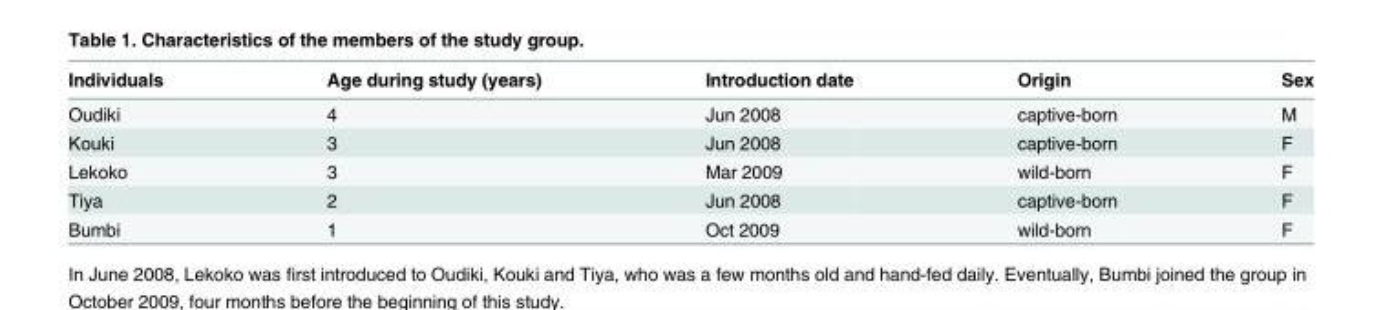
<table><thead><tr><td>Individuals</td><td>Age during study (years)</td><td>Introduction date</td><td>Origin</td><td>Sex</td></tr></thead><tbody><tr><td>Oudiki</td><td>4</td><td>Jun 2008</td><td>captive-born</td><td>M</td></tr><tr><td>Kouki</td><td>3</td><td>Jun 2008</td><td>captive-born</td><td>F</td></tr><tr><td>Lekoko</td><td>3</td><td>Mar 2009</td><td>wild-born</td><td>F</td></tr><tr><td>Tiya</td><td>2</td><td>Jun 2008</td><td>captive-born</td><td>F</td></tr><tr><td>Bumbi</td><td>1</td><td>Oct 2009</td><td>wild-born</td><td>F</td></tr></tbody></table>